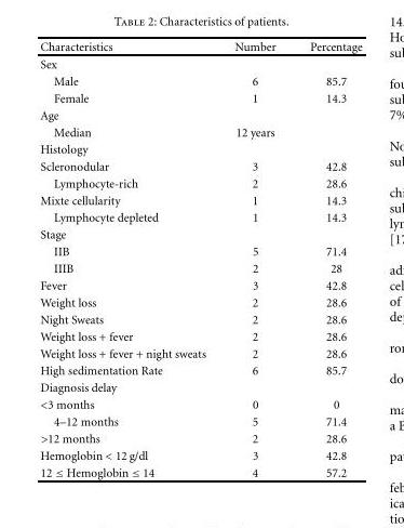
<table><thead><tr><td>Characteristics</td><td>Number</td><td>Percentage</td></tr></thead><tbody><tr><td colspan="3">Sex</td></tr><tr><td>Male</td><td>6</td><td>85.7</td></tr><tr><td>Female</td><td>1</td><td>14.3</td></tr><tr><td colspan="3">Age</td></tr><tr><td>Median</td><td>12 years</td><td></td></tr><tr><td colspan="3">Histology</td></tr><tr><td>Scleronodular</td><td>3</td><td>42.8</td></tr><tr><td>Lymphocyte-rich</td><td>2</td><td>28.6</td></tr><tr><td>Mixte cellularity</td><td>1</td><td>14.3</td></tr><tr><td>Lymphocyte depleted</td><td>1</td><td>14.3</td></tr><tr><td colspan="3">Stage</td></tr><tr><td>IIB</td><td>5</td><td>71.4</td></tr><tr><td>IIIB</td><td>2</td><td>28</td></tr><tr><td>Fever</td><td>3</td><td>42.8</td></tr><tr><td>Weight loss</td><td>2</td><td>28.6</td></tr><tr><td>Night Sweats</td><td>2</td><td>28.6</td></tr><tr><td>Weight loss + fever</td><td>2</td><td>28.6</td></tr><tr><td>Weight loss + fever + night sweats</td><td>2</td><td>28.6</td></tr><tr><td>High sedimentation Rate</td><td>6</td><td>85.7</td></tr><tr><td colspan="3">Diagnosis delay</td></tr><tr><td>&lt;3 months</td><td>0</td><td>0</td></tr><tr><td>4–12 months</td><td>5</td><td>71.4</td></tr><tr><td>&gt;12 months</td><td>2</td><td>28.6</td></tr><tr><td>Hemoglobin &lt; 12 g/dl</td><td>3</td><td>42.8</td></tr><tr><td>12 ≤ Hemoglobin ≤ 14</td><td>4</td><td>57.2</td></tr></tbody></table>